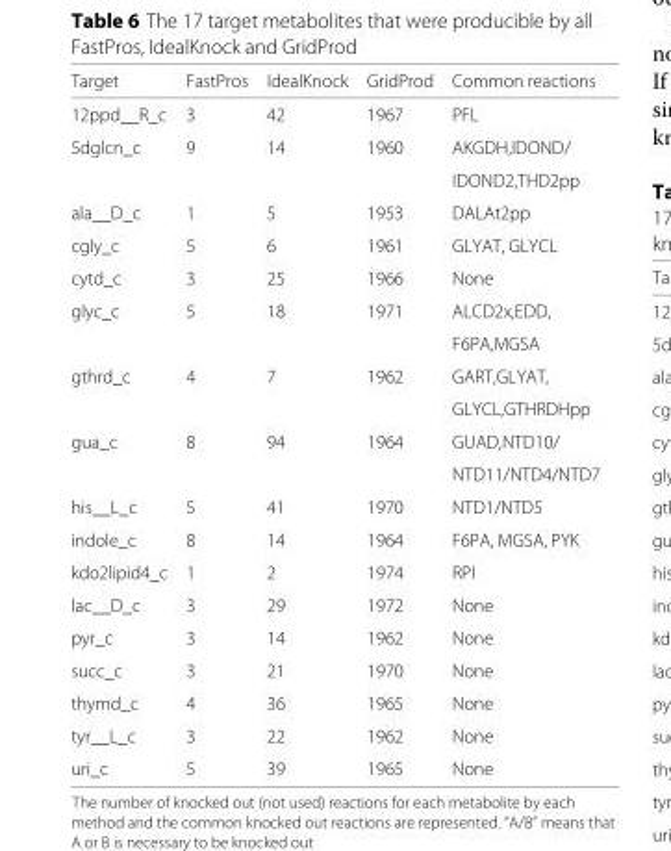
<table><thead><tr><td>Target</td><td>FastPros</td><td>IdealKnock</td><td>GridProd</td><td>Common reactions</td></tr></thead><tbody><tr><td>12ppd__R_c</td><td>3</td><td>42</td><td>1967</td><td>PFL</td></tr><tr><td rowspan="2">5dglcn_c</td><td>9</td><td>14</td><td>1960</td><td>AKGDH,IDOND/</td></tr><tr><td></td><td></td><td></td><td>IDOND2,THD2pp</td></tr><tr><td>ala__D_c</td><td>1</td><td>5</td><td>1953</td><td>DALAt2pp</td></tr><tr><td>cgly_c</td><td>5</td><td>6</td><td>1961</td><td>GLYAT, GLYCL</td></tr><tr><td>cytd_c</td><td>3</td><td>25</td><td>1966</td><td>None</td></tr><tr><td rowspan="2">glyc_c</td><td>5</td><td>18</td><td>1971</td><td>ALCD2x,EDD,</td></tr><tr><td></td><td></td><td></td><td>F6PA,MGSA</td></tr><tr><td rowspan="2">gthrd_c</td><td>4</td><td>7</td><td>1962</td><td>GART,GLYAT,</td></tr><tr><td></td><td></td><td></td><td>GLYCL,GTHRDHpp</td></tr><tr><td rowspan="2">gua_c</td><td>8</td><td>94</td><td>1964</td><td>GUAD,NTD10/</td></tr><tr><td></td><td></td><td></td><td>NTD11/NTD4/NTD7</td></tr><tr><td>his__L_c</td><td>5</td><td>41</td><td>1970</td><td>NTD1/NTD5</td></tr><tr><td>indole_c</td><td>8</td><td>14</td><td>1964</td><td>F6PA, MGSA, PYK</td></tr><tr><td>kdo2lipid4_c</td><td>1</td><td>2</td><td>1974</td><td>RPI</td></tr><tr><td>lac__D_c</td><td>3</td><td>29</td><td>1972</td><td>None</td></tr><tr><td>pyr_c</td><td>3</td><td>14</td><td>1962</td><td>None</td></tr><tr><td>succ_c</td><td>3</td><td>21</td><td>1970</td><td>None</td></tr><tr><td>thymd_c</td><td>4</td><td>36</td><td>1965</td><td>None</td></tr><tr><td>tyr__L_c</td><td>3</td><td>22</td><td>1962</td><td>None</td></tr><tr><td>uri_c</td><td>5</td><td>39</td><td>1965</td><td>None</td></tr></tbody></table>